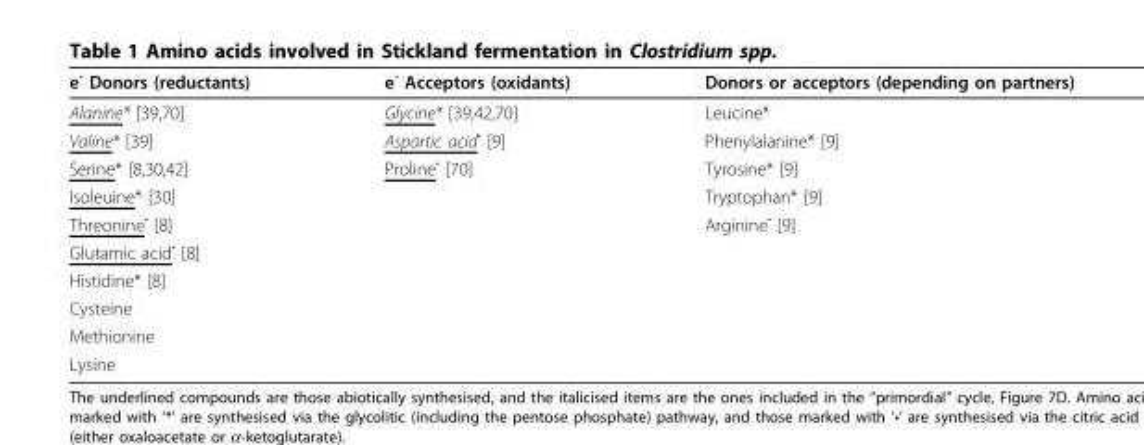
<table><thead><tr><td>e<sup>-</sup> Donors (reductants)</td><td>e<sup>-</sup> Acceptors (oxidants)</td><td>Donors or acceptors (depending on partners)</td></tr></thead><tbody><tr><td>Alanine* [39,70]</td><td>Glycine* [39,42,70]</td><td>Leucine*</td></tr><tr><td>Valine* [39]</td><td>Aspartic acid<sup>•</sup> [9]</td><td>Phenylalanine* [9]</td></tr><tr><td>Serine* [8,30,42]</td><td>Proline<sup>•</sup> [70]</td><td>Tyrosine* [9]</td></tr><tr><td>Isoleuine* [30]</td><td></td><td>Tryptophan* [9]</td></tr><tr><td>Threonine<sup>•</sup> [8]</td><td></td><td>Arginine<sup>•</sup> [9]</td></tr><tr><td colspan="3">Glutamic acid<sup>•</sup> [8]</td></tr><tr><td colspan="3">Histidine* [8]</td></tr><tr><td colspan="3">Cysteine</td></tr><tr><td colspan="3">Methionine</td></tr><tr><td>Lysine</td><td></td><td></td></tr></tbody></table>